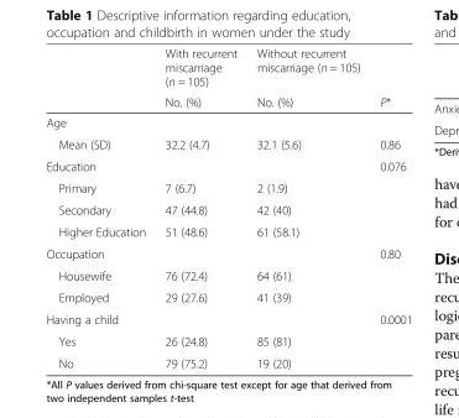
<table><thead><tr><td rowspan="2"></td><td rowspan="2">With recurrent miscarriage (n = 105) No. (%)</td><td rowspan="2">Without recurrent miscarriage (n = 105) No. (%)</td><td rowspan="2">P*</td></tr><tr></tr></thead><tbody><tr><td colspan="4">Age</td></tr><tr><td>Mean (SD)</td><td>32.2 (4.7)</td><td>32.1 (5.6)</td><td>0.86</td></tr><tr><td>Education</td><td></td><td></td><td>0.076</td></tr><tr><td>Primary</td><td>7 (6.7)</td><td>2 (1.9)</td><td></td></tr><tr><td>Secondary</td><td>47 (44.8)</td><td>42 (40)</td><td></td></tr><tr><td>Higher Education</td><td>51 (48.6)</td><td>61 (58.1)</td><td></td></tr><tr><td>Occupation</td><td></td><td></td><td>0.80</td></tr><tr><td>Housewife</td><td>76 (72.4)</td><td>64 (61)</td><td></td></tr><tr><td>Employed</td><td>29 (27.6)</td><td>41 (39)</td><td></td></tr><tr><td>Having a child</td><td></td><td></td><td>0.0001</td></tr><tr><td>Yes</td><td>26 (24.8)</td><td>85 (81)</td><td></td></tr><tr><td>No</td><td>79 (75.2)</td><td>19 (20)</td><td></td></tr></tbody></table>